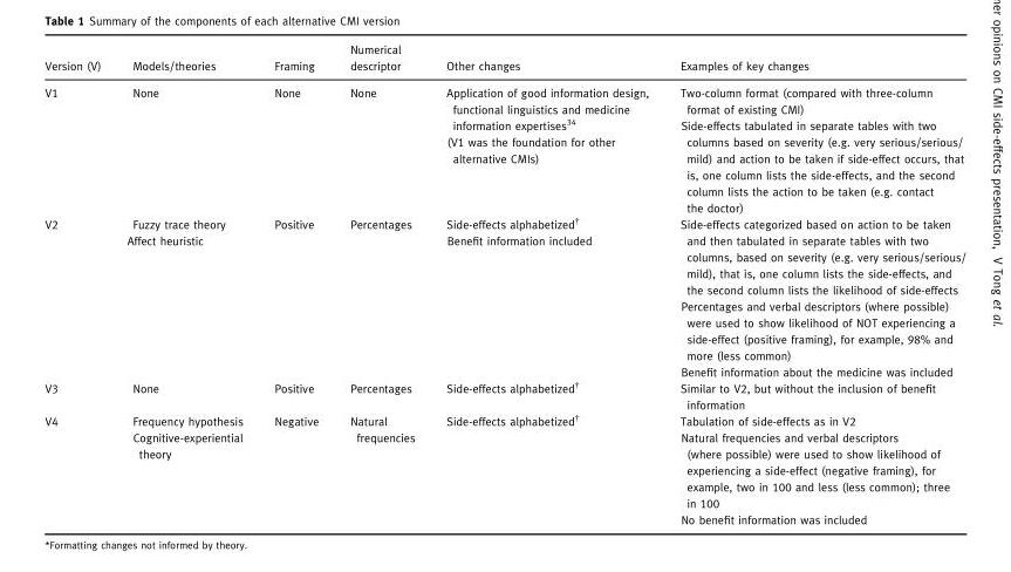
<table><thead><tr><td>Version (V)</td><td>Models/theories</td><td>Framing</td><td>Numerical descriptor</td><td>Other changes</td><td>Examples of key changes</td></tr></thead><tbody><tr><td>V1</td><td>None</td><td>None</td><td>None</td><td>Application of good information design, functional linguistics and medicine information expertises<sup>34</sup> (V1 was the foundation for other alternative CMIs)</td><td>Two-column format (compared with three-column format of existing CMI) Side-effects tabulated in separate tables with two columns based on severity (e.g. very serious/serious/ mild) and action to be taken if side-effect occurs, that is, one column lists the side-effects, and the second column lists the action to be taken (e.g. contact the doctor)</td></tr><tr><td>V2</td><td>Fuzzy trace theory Affect heuristic</td><td>Positive</td><td>Percentages</td><td>Side-effects alphabetized† Benefit information included</td><td>Side-effects categorized based on action to be taken and then tabulated in separate tables with two columns, based on severity (e.g. very serious/serious/ mild), that is, one column lists the side-effects, and the second column lists the likelihood of side-effects Percentages and verbal descriptors (where possible) were used to show likelihood of NOT experiencing a side-effect (positive framing), for example, 98% and more (less common) Benefit information about the medicine was included</td></tr><tr><td>V3</td><td>None</td><td>Positive</td><td>Percentages</td><td>Side-effects alphabetized†</td><td>Similar to V2, but without the inclusion of benefit information</td></tr><tr><td>V4</td><td>Frequency hypothesis Cognitive-experiential theory</td><td>Negative</td><td>Natural frequencies</td><td>Side-effects alphabetized†</td><td>Tabulation of side-effects as in V2 Natural frequencies and verbal descriptors (where possible) were used to show likelihood of experiencing a side-effect (negative framing), for example, two in 100 and less (less common); three in 100 No benefit information was included</td></tr></tbody></table>